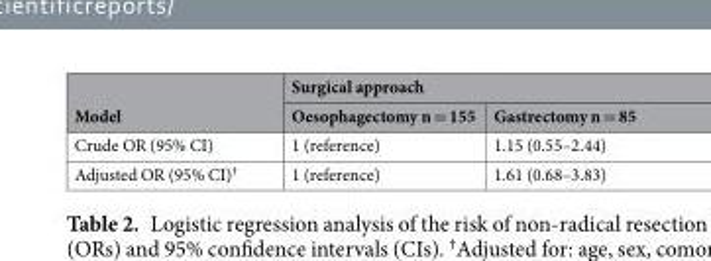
<table><thead><tr><td rowspan="2">Model</td><td colspan="2">Surgical approach</td></tr><tr><td>Oesophagectomy n = 155</td><td>Gastrectomy n = 85</td></tr></thead><tbody><tr><td>Crude OR (95% CI)</td><td>1 (reference)</td><td>1.15 (0.55–2.44)</td></tr><tr><td>Adjusted OR (95% CI)<sup>†</sup></td><td>1 (reference)</td><td>1.61 (0.68–3.83)</td></tr></tbody></table>